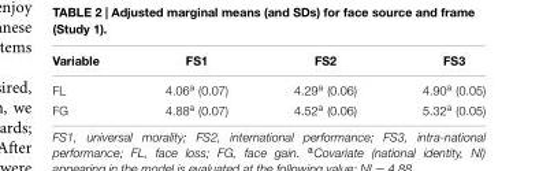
<table><thead><tr><td>Variable</td><td>FS1</td><td>FS2</td><td>FS3</td></tr></thead><tbody><tr><td>FL</td><td>4.06<sup>a</sup> (0.07)</td><td>4.29<sup>a</sup> (0.06)</td><td>4.90<sup>a</sup> (0.05)</td></tr><tr><td>FG</td><td>4.88<sup>a</sup> (0.07)</td><td>4.52<sup>a</sup> (0.06)</td><td>5.32<sup>a</sup> (0.05)</td></tr></tbody></table>